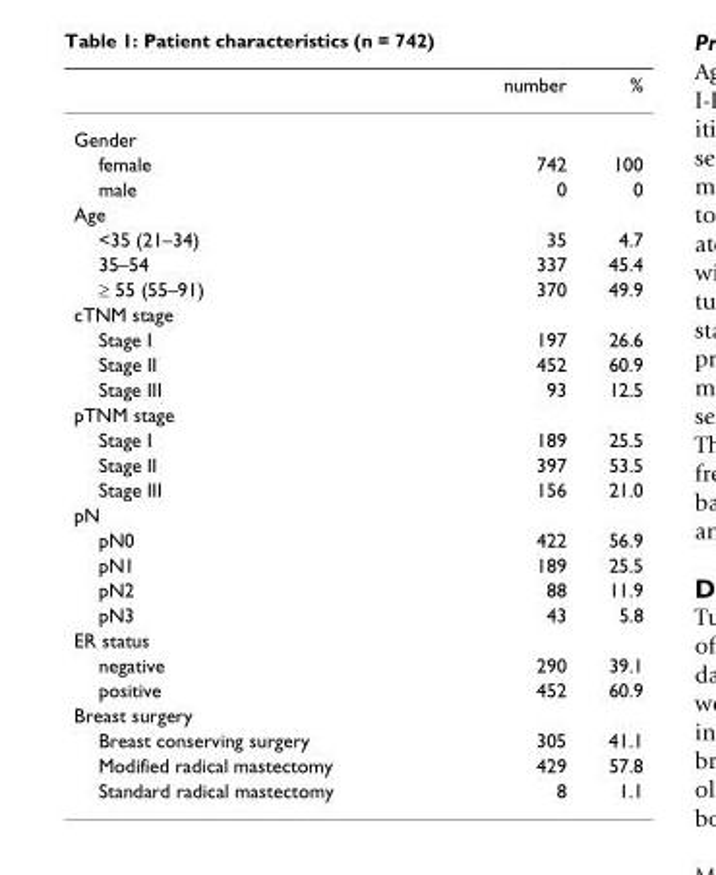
<table><thead><tr><td></td><td>number</td><td>%</td></tr></thead><tbody><tr><td colspan="3">Gender</td></tr><tr><td>female</td><td>742</td><td>100</td></tr><tr><td>male</td><td>0</td><td>0</td></tr><tr><td colspan="3">Age</td></tr><tr><td>&lt;35 (21–34)</td><td>35</td><td>4.7</td></tr><tr><td>35–54</td><td>337</td><td>45.4</td></tr><tr><td>≥ 55 (55–91)</td><td>370</td><td>49.9</td></tr><tr><td colspan="3">cTNM stage</td></tr><tr><td>Stage I</td><td>197</td><td>26.6</td></tr><tr><td>Stage II</td><td>452</td><td>60.9</td></tr><tr><td>Stage III</td><td>93</td><td>12.5</td></tr><tr><td colspan="3">pTNM stage</td></tr><tr><td>Stage I</td><td>189</td><td>25.5</td></tr><tr><td>Stage II</td><td>397</td><td>53.5</td></tr><tr><td>Stage III</td><td>156</td><td>21.0</td></tr><tr><td colspan="3">pN</td></tr><tr><td>pN0</td><td>422</td><td>56.9</td></tr><tr><td>pN1</td><td>189</td><td>25.5</td></tr><tr><td>pN2</td><td>88</td><td>11.9</td></tr><tr><td>pN3</td><td>43</td><td>5.8</td></tr><tr><td colspan="3">ER status</td></tr><tr><td>negative</td><td>290</td><td>39.1</td></tr><tr><td>positive</td><td>452</td><td>60.9</td></tr><tr><td colspan="3">Breast surgery</td></tr><tr><td>Breast conserving surgery</td><td>305</td><td>41.1</td></tr><tr><td>Modified radical mastectomy</td><td>429</td><td>57.8</td></tr><tr><td>Standard radical mastectomy</td><td>8</td><td>1.1</td></tr></tbody></table>